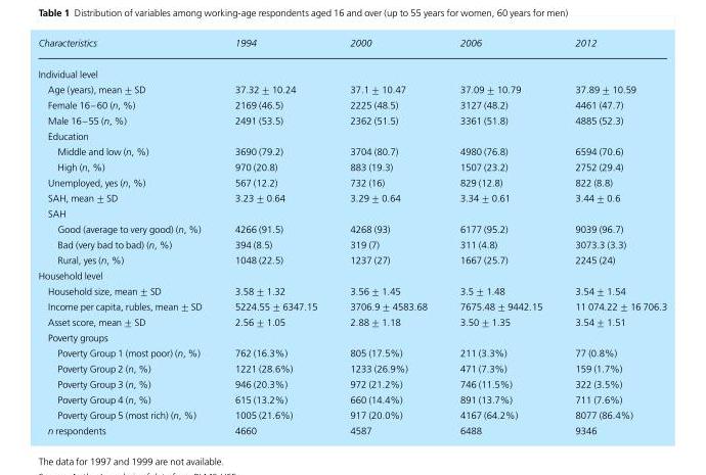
<table><thead><tr><td>Characteristics</td><td>1994</td><td>2000</td><td>2006</td><td>2012</td></tr></thead><tbody><tr><td colspan="5">Individual level</td></tr><tr><td>Age (years), mean +SD</td><td>37.32+10.24</td><td>37.1+10.47</td><td>37.09+10.79</td><td>37.89 +10.59</td></tr><tr><td>Female 16–60 (n, %)</td><td>2169 (46.5)</td><td>2225 (48.5)</td><td>3127 (48.2)</td><td>4461 (47.7)</td></tr><tr><td>Male 16–55 (n, %)</td><td>2491 (53.5)</td><td>2362 (51.5)</td><td>3361 (51.8)</td><td>4885 (52.3)</td></tr><tr><td colspan="5">Education</td></tr><tr><td>Middle and low (n, %)</td><td>3690 (79.2)</td><td>3704 (80.7)</td><td>4980 (76.8)</td><td>6594 (70.6)</td></tr><tr><td>High (n, %)</td><td>970 (20.8)</td><td>883 (19.3)</td><td>1507 (23.2)</td><td>2752 (29.4)</td></tr><tr><td>Unemployed, yes (n, %)</td><td>567 (12.2)</td><td>732 (16)</td><td>829 (12.8)</td><td>822 (8.8)</td></tr><tr><td>SAH, mean+ SD</td><td>3.23+0.64</td><td>3.29+0.64</td><td>3.34+0.61</td><td>3.44 +0.6</td></tr><tr><td colspan="5">SAH</td></tr><tr><td>Good (average to very good) (n, %)</td><td>4266 (91.5)</td><td>4268 (93)</td><td>6177 (95.2)</td><td>9039 (96.7)</td></tr><tr><td>Bad (very bad to bad) (n, %)</td><td>394 (8.5)</td><td>319 (7)</td><td>311 (4.8)</td><td>3073.3 (3.3)</td></tr><tr><td>Rural, yes (n, %)</td><td>1048 (22.5)</td><td>1237 (27)</td><td>1667 (25.7)</td><td>2245 (24)</td></tr><tr><td colspan="5">Household level</td></tr><tr><td>Household size, mean+ SD</td><td>3.58+1.32</td><td>3.56+1.45</td><td>3.5+1.48</td><td>3.54 +1.54</td></tr><tr><td>Income per capita, rubles, mean +SD</td><td>5224.55+ 6347.15</td><td>3706.9+ 4583.68</td><td>7675.48+9442.15</td><td>11 074.22 +16 706.3</td></tr><tr><td>Asset score, mean+ SD</td><td>2.56+1.05</td><td>2.88+1.18</td><td>3.50+1.35</td><td>3.54 +1.51</td></tr><tr><td colspan="5">Poverty groups</td></tr><tr><td>Poverty Group 1 (most poor) (n, %)</td><td>762 (16.3%)</td><td>805 (17.5%)</td><td>211 (3.3%)</td><td>77 (0.8%)</td></tr><tr><td>Poverty Group 2 (n, %)</td><td>1221 (28.6%)</td><td>1233 (26.9%)</td><td>471 (7.3%)</td><td>159 (1.7%)</td></tr><tr><td>Poverty Group 3 (n, %)</td><td>946 (20.3%)</td><td>972 (21.2%)</td><td>746 (11.5%)</td><td>322 (3.5%)</td></tr><tr><td>Poverty Group 4 (n, %)</td><td>615 (13.2%)</td><td>660 (14.4%)</td><td>891 (13.7%)</td><td>711 (7.6%)</td></tr><tr><td>Poverty Group 5 (most rich) (n, %)</td><td>1005 (21.6%)</td><td>917 (20.0%)</td><td>4167 (64.2%)</td><td>8077 (86.4%)</td></tr><tr><td>n respondents</td><td>4660</td><td>4587</td><td>6488</td><td>9346</td></tr></tbody></table>